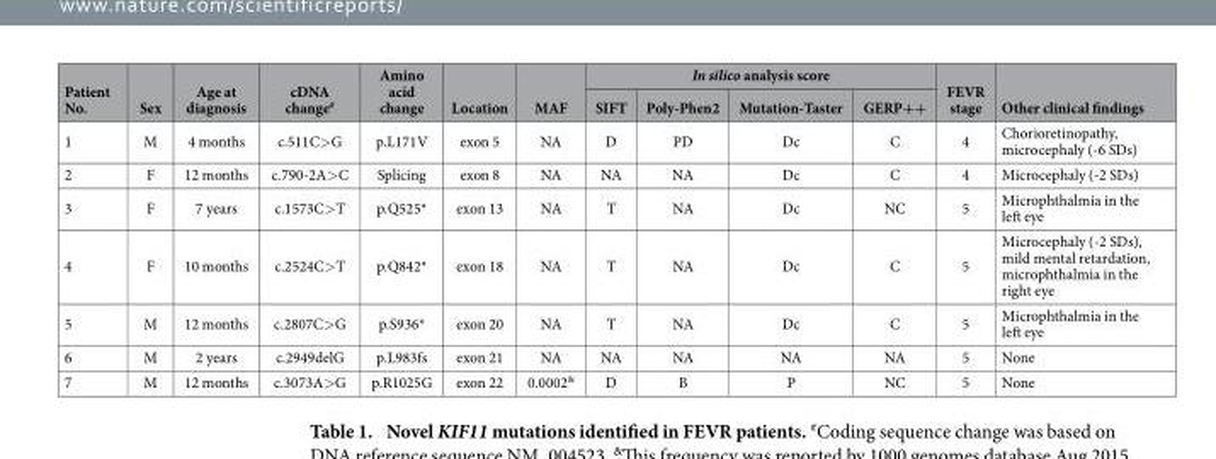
<table><thead><tr><td rowspan="2">Patient No.</td><td rowspan="2">Sex</td><td rowspan="2">Age at diagnosis</td><td rowspan="2">cDNA change#</td><td rowspan="2">Amino acid change</td><td rowspan="2">Location</td><td rowspan="2">MAF</td><td colspan="4">In silico analysis score</td><td rowspan="2">FEVR stage</td><td rowspan="2">Other clinical findings</td></tr><tr><td>SIFT</td><td>Poly-Phen2</td><td>Mutation-Taster</td><td>GERP++</td></tr></thead><tbody><tr><td>1</td><td>M</td><td>4 months</td><td>c.511C&gt; G</td><td>p.L171V</td><td>exon 5</td><td>NA</td><td>D</td><td>PD</td><td>Dc</td><td>C</td><td>4</td><td>Chorioretinopathy, microcephaly (-6 SDs)</td></tr><tr><td>2</td><td>F</td><td>12 months</td><td>c.790-2A&gt; C</td><td>Splicing</td><td>exon 8</td><td>NA</td><td>NA</td><td>NA</td><td>Dc</td><td>C</td><td>4</td><td>Microcephaly (-2 SDs)</td></tr><tr><td>3</td><td>F</td><td>7 years</td><td>c.1573C&gt; T</td><td>p.Q525*</td><td>exon 13</td><td>NA</td><td>T</td><td>NA</td><td>Dc</td><td>NC</td><td>5</td><td>Microphthalmia in the left eye</td></tr><tr><td>4</td><td>F</td><td>10 months</td><td>c.2524C&gt; T</td><td>p.Q842*</td><td>exon 18</td><td>NA</td><td>T</td><td>NA</td><td>Dc</td><td>C</td><td>5</td><td>Microcephaly (-2 SDs), mild mental retardation, microphthalmia in the right eye</td></tr><tr><td>5</td><td>M</td><td>12 months</td><td>c.2807C&gt; G</td><td>p.S936*</td><td>exon 20</td><td>NA</td><td>T</td><td>NA</td><td>Dc</td><td>C</td><td>5</td><td>Microphthalmia in the left eye</td></tr><tr><td>6</td><td>M</td><td>2 years</td><td>c.2949delG</td><td>p.L983fs</td><td>exon 21</td><td>NA</td><td>NA</td><td>NA</td><td>NA</td><td>NA</td><td>5</td><td>None</td></tr><tr><td>7</td><td>M</td><td>12 months</td><td>c.3073A&gt; G</td><td>p.R1025G</td><td>exon 22</td><td>0.0002&amp;</td><td>D</td><td>B</td><td>P</td><td>NC</td><td>5</td><td>None</td></tr></tbody></table>